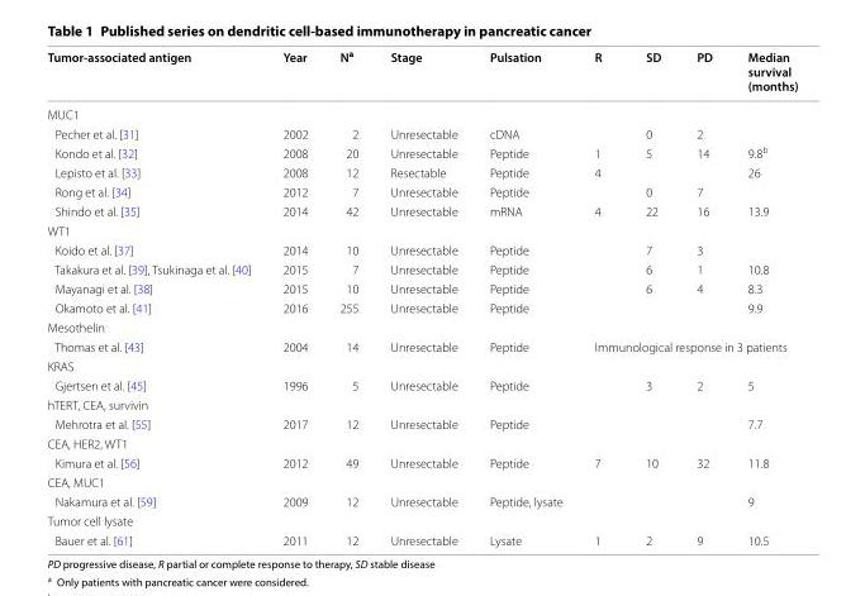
<table><thead><tr><td>Tumor‑associated antigen</td><td>Year</td><td>N<sup>a</sup></td><td>Stage</td><td>Pulsation</td><td>R</td><td>SD</td><td>PD</td><td>Median survival (months)</td></tr></thead><tbody><tr><td colspan="9">MUC1</td></tr><tr><td>Pecher et al. [31]</td><td>2002</td><td>2</td><td>Unresectable</td><td>cDNA</td><td></td><td>0</td><td>2</td><td></td></tr><tr><td>Kondo et al. [32]</td><td>2008</td><td>20</td><td>Unresectable</td><td>Peptide</td><td>1</td><td>5</td><td>14</td><td>9.8<sup>b</sup></td></tr><tr><td>Lepisto et al. [33]</td><td>2008</td><td>12</td><td>Resectable</td><td>Peptide</td><td>4</td><td></td><td></td><td>26</td></tr><tr><td>Rong et al. [34]</td><td>2012</td><td>7</td><td>Unresectable</td><td>Peptide</td><td></td><td>0</td><td>7</td><td></td></tr><tr><td>Shindo et al. [35]</td><td>2014</td><td>42</td><td>Unresectable</td><td>mRNA</td><td>4</td><td>22</td><td>16</td><td>13.9</td></tr><tr><td colspan="9">WT1</td></tr><tr><td>Koido et al. [37]</td><td>2014</td><td>10</td><td>Unresectable</td><td>Peptide</td><td></td><td>7</td><td>3</td><td></td></tr><tr><td>Takakura et al. [39], Tsukinaga et al. [40]</td><td>2015</td><td>7</td><td>Unresectable</td><td>Peptide</td><td></td><td>6</td><td>1</td><td>10.8</td></tr><tr><td>Mayanagi et al. [38]</td><td>2015</td><td>10</td><td>Unresectable</td><td>Peptide</td><td></td><td>6</td><td>4</td><td>8.3</td></tr><tr><td>Okamoto et al. [41]</td><td>2016</td><td>255</td><td>Unresectable</td><td>Peptide</td><td></td><td></td><td></td><td>9.9</td></tr><tr><td colspan="9">Mesothelin</td></tr><tr><td>Thomas et al. [43]</td><td>2004</td><td>14</td><td>Unresectable</td><td>Peptide</td><td colspan="4">Immunological response in 3 patients</td></tr><tr><td colspan="9">KRAS</td></tr><tr><td>Gjertsen et al. [45]</td><td>1996</td><td>5</td><td>Unresectable</td><td>Peptide</td><td></td><td>3</td><td>2</td><td>5</td></tr><tr><td colspan="9">hTERT, CEA, survivin</td></tr><tr><td>Mehrotra et al. [55]</td><td>2017</td><td>12</td><td>Unresectable</td><td>Peptide</td><td></td><td></td><td></td><td>7.7</td></tr><tr><td colspan="9">CEA, HER2, WT1</td></tr><tr><td>Kimura et al. [56]</td><td>2012</td><td>49</td><td>Unresectable</td><td>Peptide</td><td>7</td><td>10</td><td>32</td><td>11.8</td></tr><tr><td colspan="9">CEA, MUC1</td></tr><tr><td>Nakamura et al. [59]</td><td>2009</td><td>12</td><td>Unresectable</td><td>Peptide, lysate</td><td></td><td></td><td></td><td>9</td></tr><tr><td colspan="9">Tumor cell lysate</td></tr><tr><td>Bauer et al. [61]</td><td>2011</td><td>12</td><td>Unresectable</td><td>Lysate</td><td>1</td><td>2</td><td>9</td><td>10.5</td></tr></tbody></table>